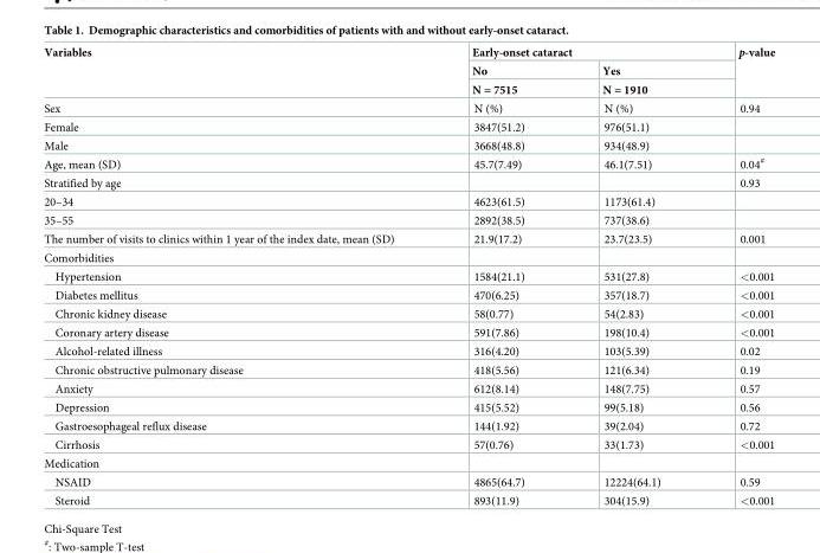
<table><thead><tr><td rowspan="3">Variables</td><td colspan="2">Early-onset cataract</td><td rowspan="3">p-value</td></tr><tr><td rowspan="2">No N = 7515</td><td rowspan="2">Yes N = 1910</td></tr><tr></tr></thead><tbody><tr><td>Sex</td><td>N (%)</td><td>N (%)</td><td>0.94</td></tr><tr><td>Female</td><td>3847(51.2)</td><td>976(51.1)</td><td></td></tr><tr><td>Male</td><td>3668(48.8)</td><td>934(48.9)</td><td></td></tr><tr><td>Age, mean (SD)</td><td>45.7(7.49)</td><td>46.1(7.51)</td><td>0.04<sup>#</sup></td></tr><tr><td>Stratified by age</td><td></td><td></td><td>0.93</td></tr><tr><td>20–34</td><td>4623(61.5)</td><td>1173(61.4)</td><td></td></tr><tr><td>35–55</td><td>2892(38.5)</td><td>737(38.6)</td><td></td></tr><tr><td>The number of visits to clinics within 1 year of the index date, mean (SD)</td><td>21.9(17.2)</td><td>23.7(23.5)</td><td>0.001</td></tr><tr><td colspan="4">Comorbidities</td></tr><tr><td>Hypertension</td><td>1584(21.1)</td><td>531(27.8)</td><td>&lt;0.001</td></tr><tr><td>Diabetes mellitus</td><td>470(6.25)</td><td>357(18.7)</td><td>&lt;0.001</td></tr><tr><td>Chronic kidney disease</td><td>58(0.77)</td><td>54(2.83)</td><td>&lt;0.001</td></tr><tr><td>Coronary artery disease</td><td>591(7.86)</td><td>198(10.4)</td><td>&lt;0.001</td></tr><tr><td>Alcohol-related illness</td><td>316(4.20)</td><td>103(5.39)</td><td>0.02</td></tr><tr><td>Chronic obstructive pulmonary disease</td><td>418(5.56)</td><td>121(6.34)</td><td>0.19</td></tr><tr><td>Anxiety</td><td>612(8.14)</td><td>148(7.75)</td><td>0.57</td></tr><tr><td>Depression</td><td>415(5.52)</td><td>99(5.18)</td><td>0.56</td></tr><tr><td>Gastroesophageal reflux disease</td><td>144(1.92)</td><td>39(2.04)</td><td>0.72</td></tr><tr><td>Cirrhosis</td><td>57(0.76)</td><td>33(1.73)</td><td>&lt;0.001</td></tr><tr><td colspan="4">Medication</td></tr><tr><td>NSAID</td><td>4865(64.7)</td><td>12224(64.1)</td><td>0.59</td></tr><tr><td>Steroid</td><td>893(11.9)</td><td>304(15.9)</td><td>&lt;0.001</td></tr></tbody></table>